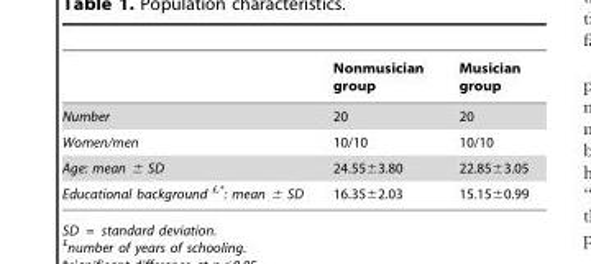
<table><thead><tr><td></td><td>Nonmusician group</td><td>Musician group</td></tr></thead><tbody><tr><td>Number</td><td>20</td><td>20</td></tr><tr><td>Women/men</td><td>10/10</td><td>10/10</td></tr><tr><td>Age: mean ± SD</td><td>24.55±3.80</td><td>22.85±3.05</td></tr><tr><td>Educational background £<sup>,</sup>*: mean ± SD</td><td>16.35±2.03</td><td>15.15±0.99</td></tr></tbody></table>